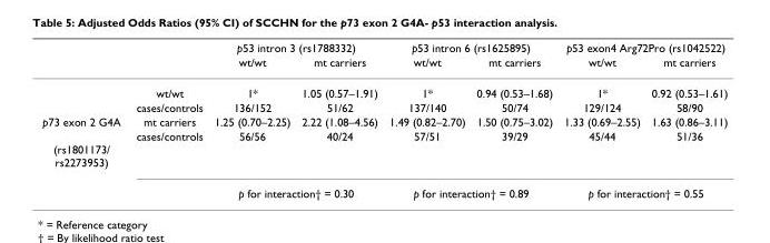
<table><thead><tr><td rowspan="2"></td><td rowspan="2"></td><td colspan="2">p53 intron 3 (rs1788332)</td><td colspan="2">p53 intron 6 (rs1625895)</td><td colspan="2">p53 exon4 Arg72Pro (rs1042522)</td></tr><tr><td>wt/wt</td><td>mt carriers</td><td>wt/wt</td><td>mt carriers</td><td>wt/wt</td><td>mt carriers</td></tr></thead><tbody><tr><td></td><td>wt/wt</td><td>1*</td><td>1.05 (0.57–1.91)</td><td>1*</td><td>0.94 (0.53–1.68)</td><td>1*</td><td>0.92 (0.53–1.61)</td></tr><tr><td></td><td>cases/controls</td><td>136/152</td><td>51/62</td><td>137/140</td><td>50/74</td><td>129/124</td><td>58/90</td></tr><tr><td>p73 exon 2 G4A</td><td>mt carriers</td><td>1.25 (0.70–2.25)</td><td>2.22 (1.08–4.56)</td><td>1.49 (0.82–2.70)</td><td>1.50 (0.75–3.02)</td><td>1.33 (0.69–2.55)</td><td>1.63 (0.86–3.11)</td></tr><tr><td rowspan="2">(rs1801173/ rs2273953)</td><td>cases/controls</td><td>56/56</td><td>40/24</td><td>57/51</td><td>39/29</td><td>45/44</td><td>51/36</td></tr><tr><td></td><td colspan="2">p for interaction† = 0.30</td><td colspan="2">p for interaction† = 0.89</td><td colspan="2">p for interaction† = 0.55</td></tr></tbody></table>